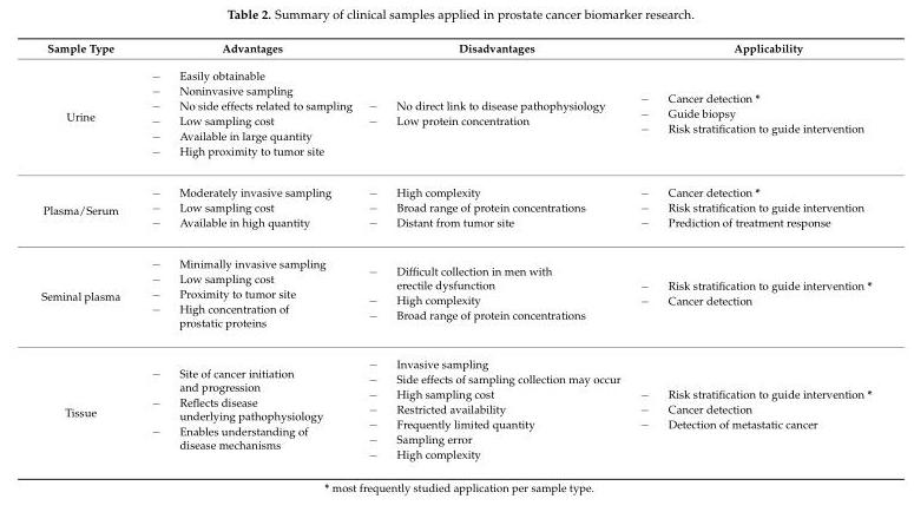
<table><thead><tr><td>Sample Type</td><td>Advantages</td><td>Disadvantages</td><td>Applicability</td></tr></thead><tbody><tr><td>Urine</td><td>− Easily obtainable − Noninvasive sampling − No side effects related to sampling − Low sampling cost − Available in large quantity − High proximity to tumor site</td><td>− No direct link to disease pathophysiology − Low protein concentration</td><td>− Cancer detection * − Guide biopsy − Risk stratification to guide intervention</td></tr><tr><td>Plasma/Serum</td><td>− Moderately invasive sampling − Low sampling cost − Available in high quantity</td><td>− High complexity − Broad range of protein concentrations − Distant from tumor site</td><td>− Cancer detection * − Risk stratification to guide intervention − Prediction of treatment response</td></tr><tr><td>Seminal plasma</td><td>− Minimally invasive sampling − Low sampling cost − Proximity to tumor site − High concentration of prostatic proteins</td><td>− Difficult collection in men with erectile dysfunction − High complexity − Broad range of protein concentrations</td><td>− Risk stratification to guide intervention * − Cancer detection</td></tr><tr><td>Tissue</td><td>− Site of cancer initiation and progression − Reflects disease underlying pathophysiology − Enables understanding of disease mechanisms</td><td>− Invasive sampling − Side effects of sampling collection may occur − High sampling cost − Restricted availability − Frequently limited quantity − Sampling error − High complexity</td><td>− Risk stratification to guide intervention * − Cancer detection − Detection of metastatic cancer</td></tr></tbody></table>